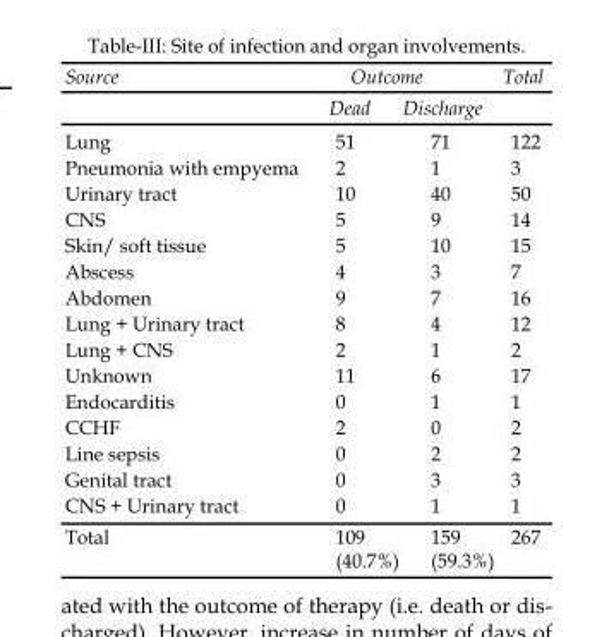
<table><thead><tr><td rowspan="2">Source</td><td colspan="2">Outcome</td><td rowspan="2">Total</td></tr><tr><td>Dead</td><td>Discharge</td></tr></thead><tbody><tr><td>Lung</td><td>51</td><td>71</td><td>122</td></tr><tr><td>Pneumonia with empyema</td><td>2</td><td>1</td><td>3</td></tr><tr><td>Urinary tract</td><td>10</td><td>40</td><td>50</td></tr><tr><td>CNS</td><td>5</td><td>9</td><td>14</td></tr><tr><td>Skin/ soft tissue</td><td>5</td><td>10</td><td>15</td></tr><tr><td>Abscess</td><td>4</td><td>3</td><td>7</td></tr><tr><td>Abdomen</td><td>9</td><td>7</td><td>16</td></tr><tr><td>Lung + Urinary tract</td><td>8</td><td>4</td><td>12</td></tr><tr><td>Lung + CNS</td><td>2</td><td>1</td><td>2</td></tr><tr><td>Unknown</td><td>11</td><td>6</td><td>17</td></tr><tr><td>Endocarditis</td><td>0</td><td>1</td><td>1</td></tr><tr><td>CCHF</td><td>2</td><td>0</td><td>2</td></tr><tr><td>Line sepsis</td><td>0</td><td>2</td><td>2</td></tr><tr><td>Genital tract</td><td>0</td><td>3</td><td>3</td></tr><tr><td>CNS + Urinary tract</td><td>0</td><td>1</td><td>1</td></tr><tr><td>Total</td><td>109 (40.7%)</td><td>159 (59.3%)</td><td>267</td></tr></tbody></table>